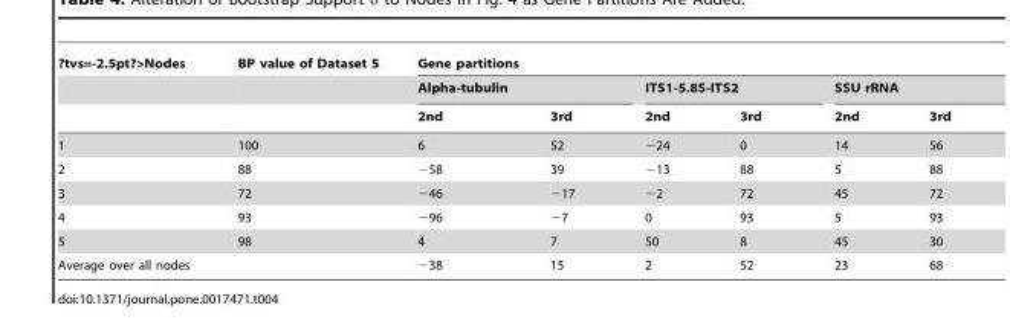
<table><thead><tr><td rowspan="3">?tvs=-2.5pt?&gt;Nodes</td><td rowspan="3">BP value of Dataset 5</td><td colspan="6">Gene partitions</td></tr><tr><td colspan="2">Alpha-tubulin</td><td colspan="2">ITS1-5.8S-ITS2</td><td colspan="2">SSU rRNA</td></tr><tr><td>2nd</td><td>3rd</td><td>2nd</td><td>3rd</td><td>2nd</td><td>3rd</td></tr></thead><tbody><tr><td>1</td><td>100</td><td>6</td><td>52</td><td>−24</td><td>0</td><td>14</td><td>56</td></tr><tr><td>2</td><td>88</td><td>−58</td><td>39</td><td>−13</td><td>88</td><td>5</td><td>88</td></tr><tr><td>3</td><td>72</td><td>−46</td><td>−17</td><td>−2</td><td>72</td><td>45</td><td>72</td></tr><tr><td>4</td><td>93</td><td>−96</td><td>−7</td><td>0</td><td>93</td><td>5</td><td>93</td></tr><tr><td>5</td><td>98</td><td>4</td><td>7</td><td>50</td><td>8</td><td>45</td><td>30</td></tr><tr><td>Average over all nodes</td><td></td><td>−38</td><td>15</td><td>2</td><td>52</td><td>23</td><td>68</td></tr></tbody></table>